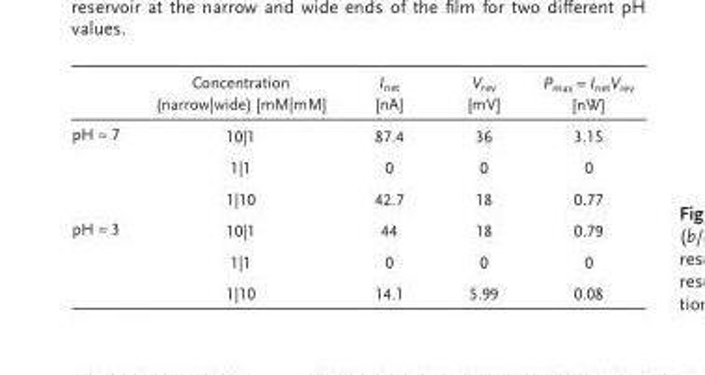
<table><thead><tr><td></td><td>Concentration (narrow|wide) [mM|mM]</td><td>I <sub>net</sub> [nA]</td><td>V <sub>rev</sub> [mV]</td><td>P <sub>max</sub> = I <sub>net</sub> V <sub>rev</sub> [nW]</td></tr></thead><tbody><tr><td rowspan="3">pH ≈ 7</td><td>10|1</td><td>87.4</td><td>36</td><td>3.15</td></tr><tr><td>1|1</td><td>0</td><td>0</td><td>0</td></tr><tr><td>1|10</td><td>42.7</td><td>18</td><td>0.77</td></tr><tr><td rowspan="3">pH ≈ 3</td><td>10|1</td><td>44</td><td>18</td><td>0.79</td></tr><tr><td>1|1</td><td>0</td><td>0</td><td>0</td></tr><tr><td>1|10</td><td>14.1</td><td>5.99</td><td>0.08</td></tr></tbody></table>